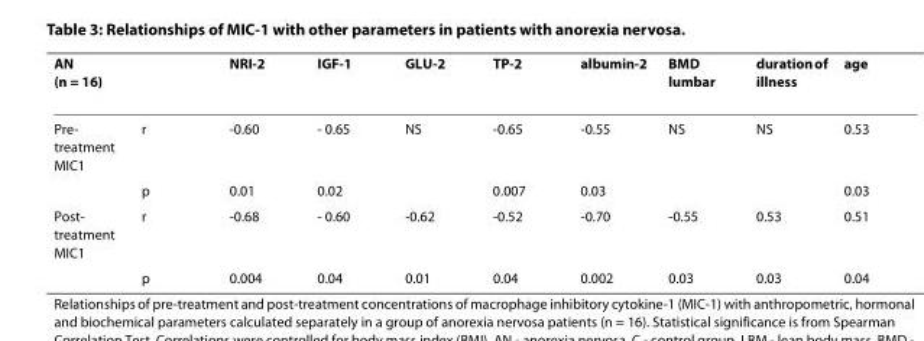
<table><thead><tr><td>AN (n = 16)</td><td></td><td>NRI-2</td><td>IGF-1</td><td>GLU-2</td><td>TP-2</td><td>albumin-2</td><td>BMD lumbar</td><td>duration of illness</td><td>age</td></tr></thead><tbody><tr><td rowspan="2">Pre- treatment MIC1</td><td>r</td><td>-0.60</td><td>- 0.65</td><td>NS</td><td>-0.65</td><td>-0.55</td><td>NS</td><td>NS</td><td>0.53</td></tr><tr><td>p</td><td>0.01</td><td>0.02</td><td></td><td>0.007</td><td>0.03</td><td></td><td></td><td>0.03</td></tr><tr><td rowspan="2">Post- treatment MIC1</td><td>r</td><td>-0.68</td><td>- 0.60</td><td>-0.62</td><td>-0.52</td><td>-0.70</td><td>-0.55</td><td>0.53</td><td>0.51</td></tr><tr><td>p</td><td>0.004</td><td>0.04</td><td>0.01</td><td>0.04</td><td>0.002</td><td>0.03</td><td>0.03</td><td>0.04</td></tr></tbody></table>